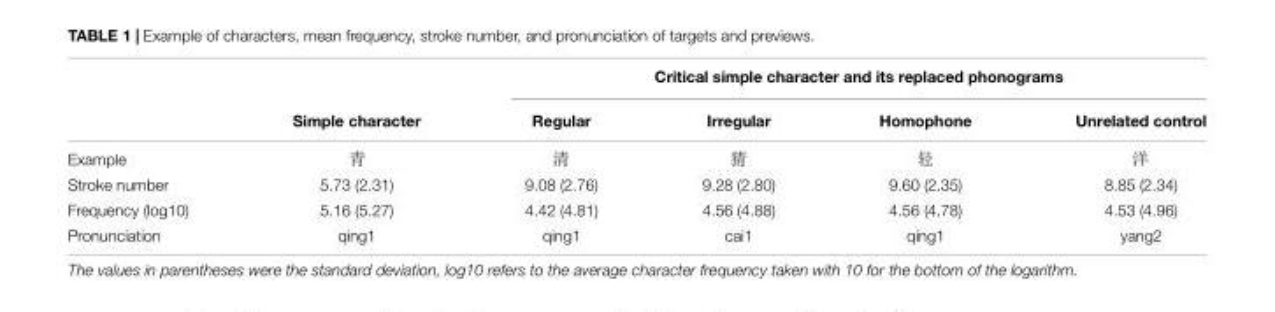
<table><thead><tr><td rowspan="2"></td><td rowspan="2">Simple character</td><td colspan="4">Critical simple character and its replaced phonograms</td></tr><tr><td>Regular</td><td>Irregular</td><td>Homophone</td><td>Unrelated control</td></tr></thead><tbody><tr><td colspan="6">Example</td></tr><tr><td>Stroke number</td><td>5.73 (2.31)</td><td>9.08 (2.76)</td><td>9.28 (2.80)</td><td>9.60 (2.35)</td><td>8.85 (2.34)</td></tr><tr><td>Frequency (log10)</td><td>5.16 (5.27)</td><td>4.42 (4.81)</td><td>4.56 (4.88)</td><td>4.56 (4.78)</td><td>4.53 (4.96)</td></tr><tr><td>Pronunciation</td><td>qing1</td><td>qing1</td><td>cai1</td><td>qing1</td><td>yang2</td></tr></tbody></table>